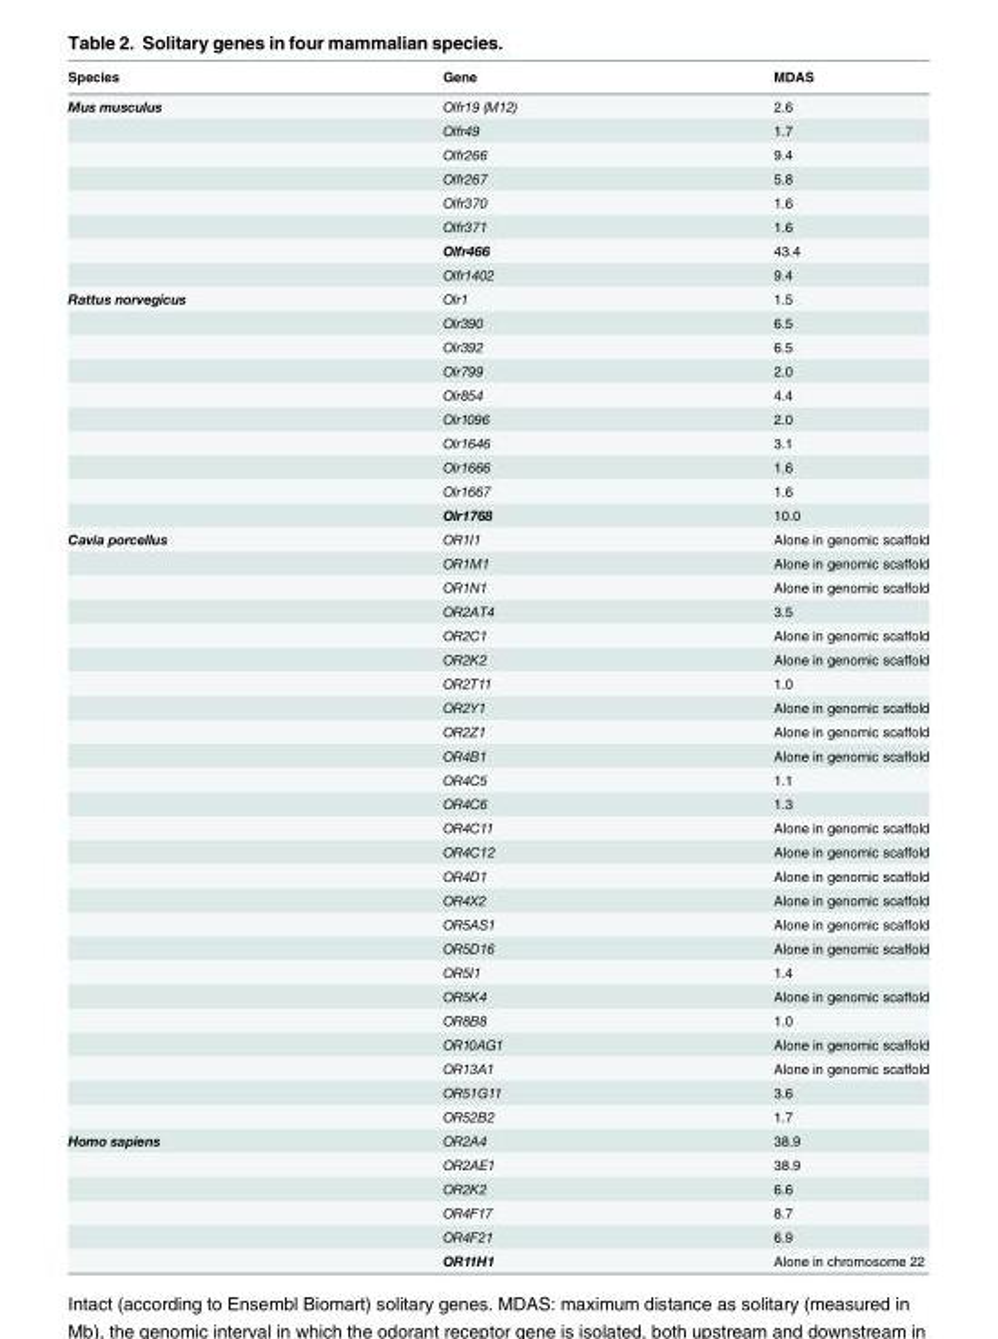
<table><thead><tr><td>Species</td><td>Gene</td><td>MDAS</td></tr></thead><tbody><tr><td rowspan="8">Mus musculus</td><td>Olfr19 (M12)</td><td>2.6</td></tr><tr><td>Olfr49</td><td>1.7</td></tr><tr><td>Olfr266</td><td>9.4</td></tr><tr><td>Olfr267</td><td>5.8</td></tr><tr><td>Olfr370</td><td>1.6</td></tr><tr><td>Olfr371</td><td>1.6</td></tr><tr><td>Olfr466</td><td>43.4</td></tr><tr><td>Olfr1402</td><td>9.4</td></tr><tr><td rowspan="10">Rattus norvegicus</td><td>Olr1</td><td>1.5</td></tr><tr><td>Olr390</td><td>6.5</td></tr><tr><td>Olr392</td><td>6.5</td></tr><tr><td>Olr799</td><td>2.0</td></tr><tr><td>Olr854</td><td>4.4</td></tr><tr><td>Olr1096</td><td>2.0</td></tr><tr><td>Olr1646</td><td>3.1</td></tr><tr><td>Olr1666</td><td>1.6</td></tr><tr><td>Olr1667</td><td>1.6</td></tr><tr><td>Olr1768</td><td>10.0</td></tr><tr><td rowspan="25">Cavia porcellus</td><td>OR1I1</td><td>Alone in genomic scaffold</td></tr><tr><td>OR1M1</td><td>Alone in genomic scaffold</td></tr><tr><td>OR1N1</td><td>Alone in genomic scaffold</td></tr><tr><td>OR2AT4</td><td>3.5</td></tr><tr><td>OR2C1</td><td>Alone in genomic scaffold</td></tr><tr><td>OR2K2</td><td>Alone in genomic scaffold</td></tr><tr><td>OR2T11</td><td>1.0</td></tr><tr><td>OR2Y1</td><td>Alone in genomic scaffold</td></tr><tr><td>OR2Z1</td><td>Alone in genomic scaffold</td></tr><tr><td>OR4B1</td><td>Alone in genomic scaffold</td></tr><tr><td>OR4C5</td><td>1.1</td></tr><tr><td>OR4C6</td><td>1.3</td></tr><tr><td>OR4C11</td><td>Alone in genomic scaffold</td></tr><tr><td>OR4C12</td><td>Alone in genomic scaffold</td></tr><tr><td>OR4D1</td><td>Alone in genomic scaffold</td></tr><tr><td>OR4X2</td><td>Alone in genomic scaffold</td></tr><tr><td>OR5AS1</td><td>Alone in genomic scaffold</td></tr><tr><td>OR5D16</td><td>Alone in genomic scaffold</td></tr><tr><td>OR5I1</td><td>1.4</td></tr><tr><td>OR5K4</td><td>Alone in genomic scaffold</td></tr><tr><td>OR8B8</td><td>1.0</td></tr><tr><td>OR10AG1</td><td>Alone in genomic scaffold</td></tr><tr><td>OR13A1</td><td>Alone in genomic scaffold</td></tr><tr><td>OR51G11</td><td>3.6</td></tr><tr><td>OR52B2</td><td>1.7</td></tr><tr><td rowspan="6">Homo sapiens</td><td>OR2A4</td><td>38.9</td></tr><tr><td>OR2AE1</td><td>38.9</td></tr><tr><td>OR2K2</td><td>6.6</td></tr><tr><td>OR4F17</td><td>8.7</td></tr><tr><td>OR4F21</td><td>6.9</td></tr><tr><td>OR11H1</td><td>Alone in chromosome 22</td></tr></tbody></table>